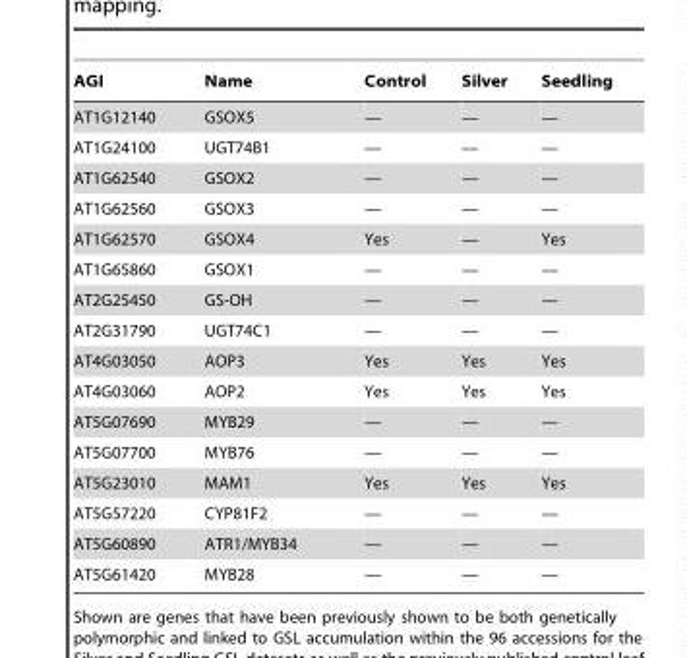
<table><thead><tr><td>AGI</td><td>Name</td><td>Control</td><td>Silver</td><td>Seedling</td></tr></thead><tbody><tr><td>AT1G12140</td><td>GSOX5</td><td>—</td><td>—</td><td>—</td></tr><tr><td>AT1G24100</td><td>UGT74B1</td><td>—</td><td>—</td><td>—</td></tr><tr><td>AT1G62540</td><td>GSOX2</td><td>—</td><td>—</td><td>—</td></tr><tr><td>AT1G62560</td><td>GSOX3</td><td>—</td><td>—</td><td>—</td></tr><tr><td>AT1G62570</td><td>GSOX4</td><td>Yes</td><td>—</td><td>Yes</td></tr><tr><td>AT1G65860</td><td>GSOX1</td><td>—</td><td>—</td><td>—</td></tr><tr><td>AT2G25450</td><td>GS-OH</td><td>—</td><td>—</td><td>—</td></tr><tr><td>AT2G31790</td><td>UGT74C1</td><td>—</td><td>—</td><td>—</td></tr><tr><td>AT4G03050</td><td>AOP3</td><td>Yes</td><td>Yes</td><td>Yes</td></tr><tr><td>AT4G03060</td><td>AOP2</td><td>Yes</td><td>Yes</td><td>Yes</td></tr><tr><td>AT5G07690</td><td>MYB29</td><td>—</td><td>—</td><td>—</td></tr><tr><td>AT5G07700</td><td>MYB76</td><td>—</td><td>—</td><td>—</td></tr><tr><td>AT5G23010</td><td>MAM1</td><td>Yes</td><td>Yes</td><td>Yes</td></tr><tr><td>AT5G57220</td><td>CYP81F2</td><td>—</td><td>—</td><td>—</td></tr><tr><td>AT5G60890</td><td>ATR1/MYB34</td><td>—</td><td>—</td><td>—</td></tr><tr><td>AT5G61420</td><td>MYB28</td><td>—</td><td>—</td><td>—</td></tr></tbody></table>